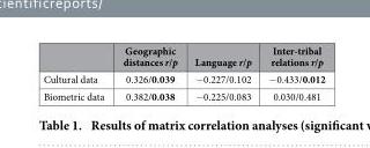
<table><thead><tr><td></td><td>Geographic distances r/p</td><td>Language r/p</td><td>Inter-tribal relations r/p</td></tr></thead><tbody><tr><td>Cultural data</td><td>0.326/0.039</td><td>− 0.227/0.102</td><td>− 0.433/0.012</td></tr><tr><td>Biometric data</td><td>0.382/0.038</td><td>− 0.225/0.083</td><td>0.030/0.481</td></tr></tbody></table>